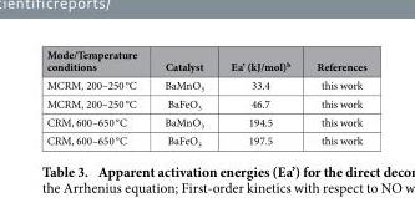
<table><thead><tr><td>Mode/Temperature conditions</td><td>Catalyst</td><td>Ea’ (kJ/mol)<sup>b</sup></td><td>References</td></tr></thead><tbody><tr><td>MCRM, 200–250 °C</td><td>BaMnO<sub>3</sub></td><td>33.4</td><td>this work</td></tr><tr><td>MCRM, 200–250 °C</td><td>BaFeO<sub>3</sub></td><td>46.7</td><td>this work</td></tr><tr><td>CRM, 600–650 °C</td><td>BaMnO<sub>3</sub></td><td>194.5</td><td>this work</td></tr><tr><td>CRM, 600–650 °C</td><td>BaFeO<sub>3</sub></td><td>197.5</td><td>this work</td></tr></tbody></table>